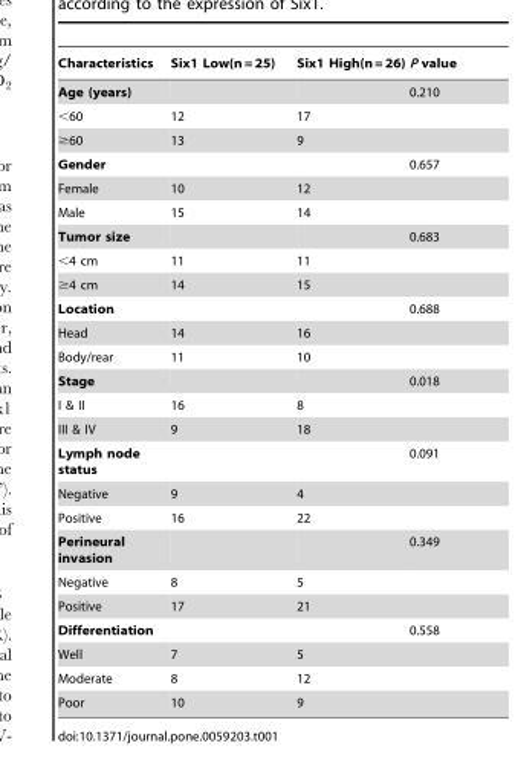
<table><thead><tr><td>Characteristics</td><td>Six1 Low(n = 25)</td><td>Six1 High(n = 26)</td><td>P value</td></tr></thead><tbody><tr><td>Age (years)</td><td></td><td></td><td>0.210</td></tr><tr><td>&lt;60</td><td>12</td><td>17</td><td></td></tr><tr><td>≥60</td><td>13</td><td>9</td><td></td></tr><tr><td>Gender</td><td></td><td></td><td>0.657</td></tr><tr><td>Female</td><td>10</td><td>12</td><td></td></tr><tr><td>Male</td><td>15</td><td>14</td><td></td></tr><tr><td>Tumor size</td><td></td><td></td><td>0.683</td></tr><tr><td>&lt;4 cm</td><td>11</td><td>11</td><td></td></tr><tr><td>≥4 cm</td><td>14</td><td>15</td><td></td></tr><tr><td>Location</td><td></td><td></td><td>0.688</td></tr><tr><td>Head</td><td>14</td><td>16</td><td></td></tr><tr><td>Body/rear</td><td>11</td><td>10</td><td></td></tr><tr><td>Stage</td><td></td><td></td><td>0.018</td></tr><tr><td>I &amp; II</td><td>16</td><td>8</td><td></td></tr><tr><td>III &amp; IV</td><td>9</td><td>18</td><td></td></tr><tr><td>Lymph node status</td><td></td><td></td><td>0.091</td></tr><tr><td>Negative</td><td>9</td><td>4</td><td></td></tr><tr><td>Positive</td><td>16</td><td>22</td><td></td></tr><tr><td>Perineural invasion</td><td></td><td></td><td>0.349</td></tr><tr><td>Negative</td><td>8</td><td>5</td><td></td></tr><tr><td>Positive</td><td>17</td><td>21</td><td></td></tr><tr><td>Differentiation</td><td></td><td></td><td>0.558</td></tr><tr><td>Well</td><td>7</td><td>5</td><td></td></tr><tr><td>Moderate</td><td>8</td><td>12</td><td></td></tr><tr><td>Poor</td><td>10</td><td>9</td><td></td></tr></tbody></table>